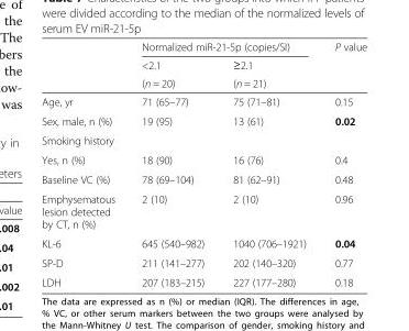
<table><thead><tr><td rowspan="3"></td><td colspan="2">Normalized miR-21-5p (copies/SI)</td><td rowspan="3">P value</td></tr><tr><td rowspan="2">&lt;2.1 (n = 20)</td><td rowspan="2">≥2.1 (n = 21)</td></tr><tr></tr></thead><tbody><tr><td>Age, yr</td><td>71 (65–77)</td><td>75 (71–81)</td><td>0.15</td></tr><tr><td>Sex, male, n (%)</td><td>19 (95)</td><td>13 (61)</td><td>0.02</td></tr><tr><td colspan="4">Smoking history</td></tr><tr><td>Yes, n (%)</td><td>18 (90)</td><td>16 (76)</td><td>0.4</td></tr><tr><td>Baseline VC (%)</td><td>78 (69–104)</td><td>81 (62–91)</td><td>0.48</td></tr><tr><td>Emphysematous lesion detected by CT, n (%)</td><td>2 (10)</td><td>2 (10)</td><td>0.96</td></tr><tr><td>KL-6</td><td>645 (540–982)</td><td>1040 (706–1921)</td><td>0.04</td></tr><tr><td>SP-D</td><td>211 (141–277)</td><td>202 (140–320)</td><td>0.77</td></tr><tr><td>LDH</td><td>207 (183–215)</td><td>227 (177–280)</td><td>0.18</td></tr></tbody></table>